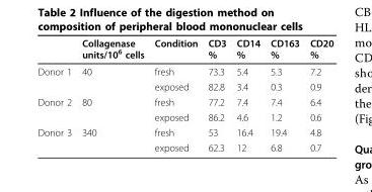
<table><thead><tr><td></td><td>Collagenase units/10<sup>6</sup> cells</td><td>Condition</td><td>CD3 %</td><td>CD14 %</td><td>CD163 %</td><td>CD20 %</td></tr></thead><tbody><tr><td rowspan="2">Donor 1</td><td>40</td><td>fresh</td><td>73.3</td><td>5.4</td><td>5.3</td><td>7.2</td></tr><tr><td></td><td>exposed</td><td>82.8</td><td>3.4</td><td>0.3</td><td>0.9</td></tr><tr><td rowspan="2">Donor 2</td><td>80</td><td>fresh</td><td>77.2</td><td>7.4</td><td>7.4</td><td>6.4</td></tr><tr><td></td><td>exposed</td><td>86.2</td><td>4.6</td><td>1.2</td><td>0.6</td></tr><tr><td rowspan="2">Donor 3</td><td>340</td><td>fresh</td><td>53</td><td>16.4</td><td>19.4</td><td>4.8</td></tr><tr><td></td><td>exposed</td><td>62.3</td><td>12</td><td>6.8</td><td>0.7</td></tr></tbody></table>